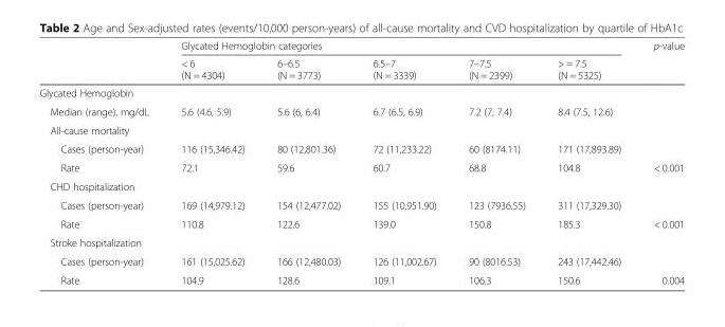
<table><thead><tr><td rowspan="2"></td><td colspan="5">Glycated Hemoglobin categories</td><td rowspan="2">p-value</td></tr><tr><td>&lt; 6 (N = 4304)</td><td>6–6.5 (N = 3773)</td><td>6.5–7 (N = 3339)</td><td>7–7.5 (N = 2399)</td><td>&gt; = 7.5 (N = 5325)</td></tr></thead><tbody><tr><td colspan="7">Glycated Hemoglobin</td></tr><tr><td>Median (range), mg/dL</td><td>5.6 (4.6, 5.9)</td><td>5.6 (6, 6.4)</td><td>6.7 (6.5, 6.9)</td><td>7.2 (7, 7.4)</td><td>8.4 (7.5, 12.6)</td><td></td></tr><tr><td colspan="7">All-cause mortality</td></tr><tr><td>Cases (person-year)</td><td>116 (15,346.42)</td><td>80 (12,801.36)</td><td>72 (11,233.22)</td><td>60 (8174.11)</td><td>171 (17,893.89)</td><td></td></tr><tr><td>Rate</td><td>72.1</td><td>59.6</td><td>60.7</td><td>68.8</td><td>104.8</td><td>&lt; 0.001</td></tr><tr><td colspan="7">CHD hospitalization</td></tr><tr><td>Cases (person-year)</td><td>169 (14,979.12)</td><td>154 (12,477.02)</td><td>155 (10,951.90)</td><td>123 (7936.55)</td><td>311 (17,329.30)</td><td></td></tr><tr><td>Rate</td><td>110.8</td><td>122.6</td><td>139.0</td><td>150.8</td><td>185.3</td><td>&lt; 0.001</td></tr><tr><td colspan="7">Stroke hospitalization</td></tr><tr><td>Cases (person-year)</td><td>161 (15,025.62)</td><td>166 (12,480.03)</td><td>126 (11,002.67)</td><td>90 (8016.53)</td><td>243 (17,442.46)</td><td></td></tr><tr><td>Rate</td><td>104.9</td><td>128.6</td><td>109.1</td><td>106.3</td><td>150.6</td><td>0.004</td></tr></tbody></table>